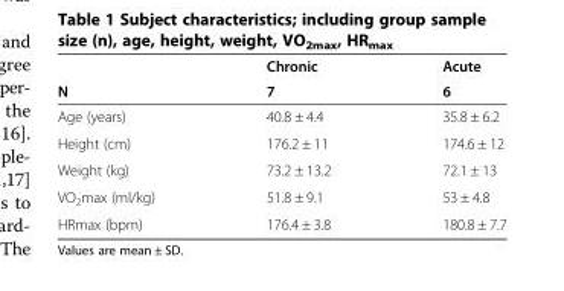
<table><thead><tr><td rowspan="2">N</td><td rowspan="2">Chronic 7</td><td rowspan="2">Acute 6</td></tr><tr></tr></thead><tbody><tr><td>Age (years)</td><td>40.8 ± 4.4</td><td>35.8 ± 6.2</td></tr><tr><td>Height (cm)</td><td>176.2 ± 11</td><td>174.6 ± 12</td></tr><tr><td>Weight (kg)</td><td>73.2 ± 13.2</td><td>72.1 ± 13</td></tr><tr><td>VO<sub>2</sub>max (ml/kg)</td><td>51.8 ± 9.1</td><td>53 ± 4.8</td></tr><tr><td>HRmax (bpm)</td><td>176.4 ± 3.8</td><td>180.8 ± 7.7</td></tr></tbody></table>